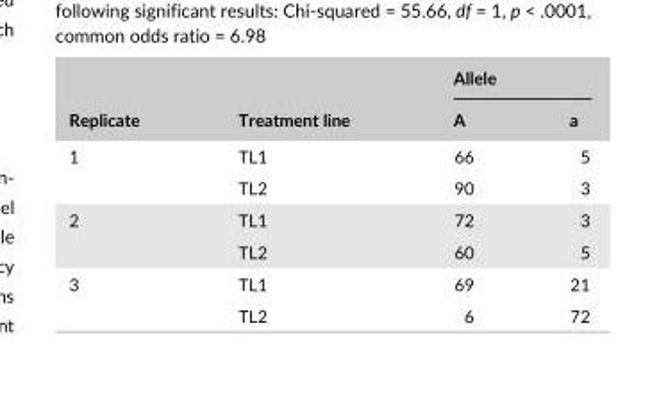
<table><thead><tr><td rowspan="2">Replicate</td><td rowspan="2">Treatment line</td><td colspan="2">Allele</td></tr><tr><td>A</td><td>a</td></tr></thead><tbody><tr><td rowspan="2">1</td><td>TL1</td><td>66</td><td>5</td></tr><tr><td>TL2</td><td>90</td><td>3</td></tr><tr><td rowspan="2">2</td><td>TL1</td><td>72</td><td>3</td></tr><tr><td>TL2</td><td>60</td><td>5</td></tr><tr><td rowspan="2">3</td><td>TL1</td><td>69</td><td>21</td></tr><tr><td>TL2</td><td>6</td><td>72</td></tr></tbody></table>